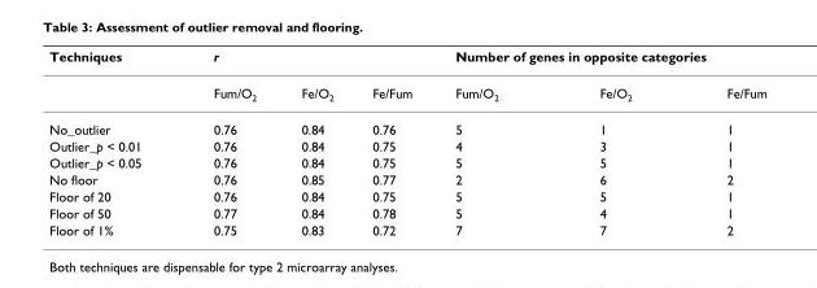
<table><thead><tr><td rowspan="2">Techniques</td><td colspan="3">r</td><td colspan="3">Number of genes in opposite categories</td></tr><tr><td>Fum/O<sub>2</sub></td><td>Fe/O<sub>2</sub></td><td>Fe/Fum</td><td>Fum/O<sub>2</sub></td><td>Fe/O<sub>2</sub></td><td>Fe/Fum</td></tr></thead><tbody><tr><td>No_outlier</td><td>0.76</td><td>0.84</td><td>0.76</td><td>5</td><td>1</td><td>1</td></tr><tr><td>Outlier_p &lt; 0.01</td><td>0.76</td><td>0.84</td><td>0.75</td><td>4</td><td>3</td><td>1</td></tr><tr><td>Outlier_p &lt; 0.05</td><td>0.76</td><td>0.84</td><td>0.75</td><td>5</td><td>5</td><td>1</td></tr><tr><td>No floor</td><td>0.76</td><td>0.85</td><td>0.77</td><td>2</td><td>6</td><td>2</td></tr><tr><td>Floor of 20</td><td>0.76</td><td>0.84</td><td>0.75</td><td>5</td><td>5</td><td>1</td></tr><tr><td>Floor of 50</td><td>0.77</td><td>0.84</td><td>0.78</td><td>5</td><td>4</td><td>1</td></tr><tr><td>Floor of 1%</td><td>0.75</td><td>0.83</td><td>0.72</td><td>7</td><td>7</td><td>2</td></tr></tbody></table>